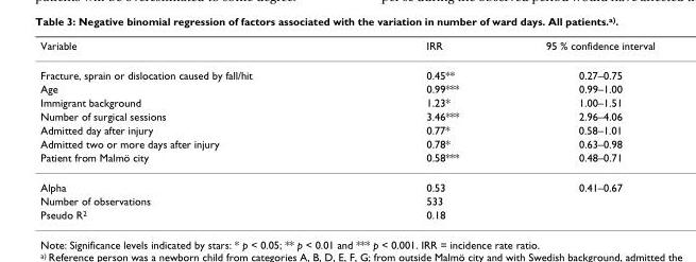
<table><thead><tr><td>Variable</td><td>IRR</td><td>95 % confidence interval</td></tr></thead><tbody><tr><td>Fracture, sprain or dislocation caused by fall/hit</td><td>0.45**</td><td>0.27–0.75</td></tr><tr><td>Age</td><td>0.99***</td><td>0.99–1.00</td></tr><tr><td>Immigrant background</td><td>1.23*</td><td>1.00–1.51</td></tr><tr><td>Number of surgical sessions</td><td>3.46***</td><td>2.96–4.06</td></tr><tr><td>Admitted day after injury</td><td>0.77*</td><td>0.58–1.01</td></tr><tr><td>Admitted two or more days after injury</td><td>0.78*</td><td>0.63–0.98</td></tr><tr><td>Patient from Malmö city</td><td>0.58***</td><td>0.48–0.71</td></tr><tr><td>Alpha</td><td>0.53</td><td>0.41–0.67</td></tr><tr><td>Number of observations</td><td>533</td><td></td></tr><tr><td>Pseudo R<sup>2</sup></td><td>0.18</td><td></td></tr></tbody></table>